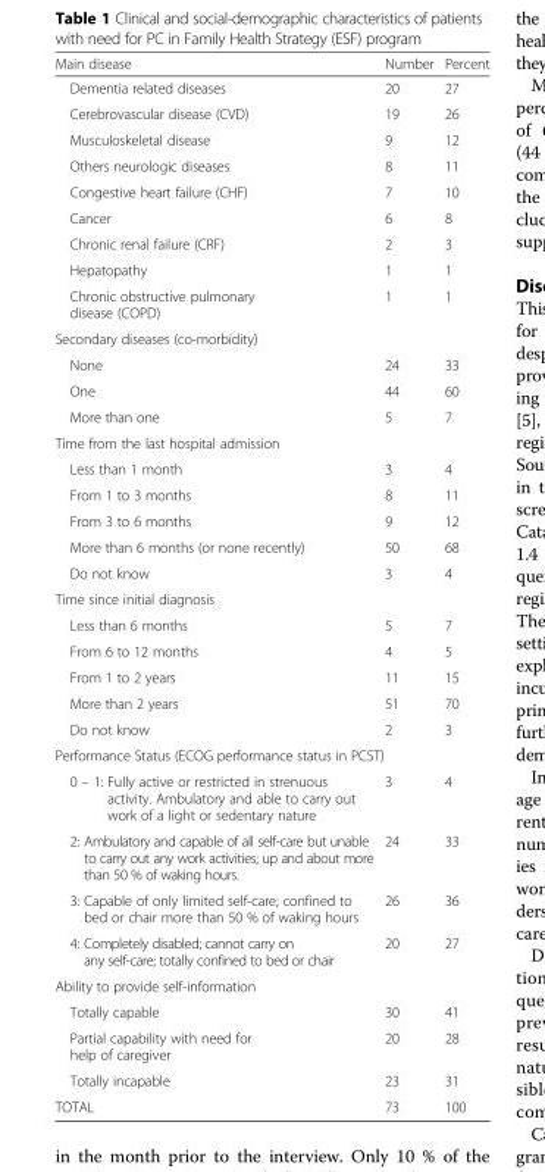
<table><thead><tr><td>Main disease</td><td>Number</td><td>Percent</td></tr></thead><tbody><tr><td>Dementia related diseases</td><td>20</td><td>27</td></tr><tr><td>Cerebrovascular disease (CVD)</td><td>19</td><td>26</td></tr><tr><td>Musculoskeletal disease</td><td>9</td><td>12</td></tr><tr><td>Others neurologic diseases</td><td>8</td><td>11</td></tr><tr><td>Congestive heart failure (CHF)</td><td>7</td><td>10</td></tr><tr><td>Cancer</td><td>6</td><td>8</td></tr><tr><td>Chronic renal failure (CRF)</td><td>2</td><td>3</td></tr><tr><td>Hepatopathy</td><td>1</td><td>1</td></tr><tr><td>Chronic obstructive pulmonary disease (COPD)</td><td>1</td><td>1</td></tr><tr><td colspan="3">Secondary diseases (co-morbidity)</td></tr><tr><td>None</td><td>24</td><td>33</td></tr><tr><td>One</td><td>44</td><td>60</td></tr><tr><td>More than one</td><td>5</td><td>7</td></tr><tr><td colspan="3">Time from the last hospital admission</td></tr><tr><td>Less than 1 month</td><td>3</td><td>4</td></tr><tr><td>From 1 to 3 months</td><td>8</td><td>11</td></tr><tr><td>From 3 to 6 months</td><td>9</td><td>12</td></tr><tr><td>More than 6 months (or none recently)</td><td>50</td><td>68</td></tr><tr><td>Do not know</td><td>3</td><td>4</td></tr><tr><td colspan="3">Time since initial diagnosis</td></tr><tr><td>Less than 6 months</td><td>5</td><td>7</td></tr><tr><td>From 6 to 12 months</td><td>4</td><td>5</td></tr><tr><td>From 1 to 2 years</td><td>11</td><td>15</td></tr><tr><td>More than 2 years</td><td>51</td><td>70</td></tr><tr><td>Do not know</td><td>2</td><td>3</td></tr><tr><td colspan="3">Performance Status (ECOG performance status in PCST)</td></tr><tr><td>0 – 1: Fully active or restricted in strenuous activity. Ambulatory and able to carry out work of a light or sedentary nature</td><td>3</td><td>4</td></tr><tr><td>2: Ambulatory and capable of all self-care but unable to carry out any work activities; up and about more than 50 % of waking hours.</td><td>24</td><td>33</td></tr><tr><td>3: Capable of only limited self-care; confined to bed or chair more than 50 % of waking hours</td><td>26</td><td>36</td></tr><tr><td>4: Completely disabled; cannot carry on any self-care; totally confined to bed or chair</td><td>20</td><td>27</td></tr><tr><td colspan="3">Ability to provide self-information</td></tr><tr><td>Totally capable</td><td>30</td><td>41</td></tr><tr><td>Partial capability with need for help of caregiver</td><td>20</td><td>28</td></tr><tr><td>Totally incapable</td><td>23</td><td>31</td></tr><tr><td>TOTAL</td><td>73</td><td>100</td></tr></tbody></table>